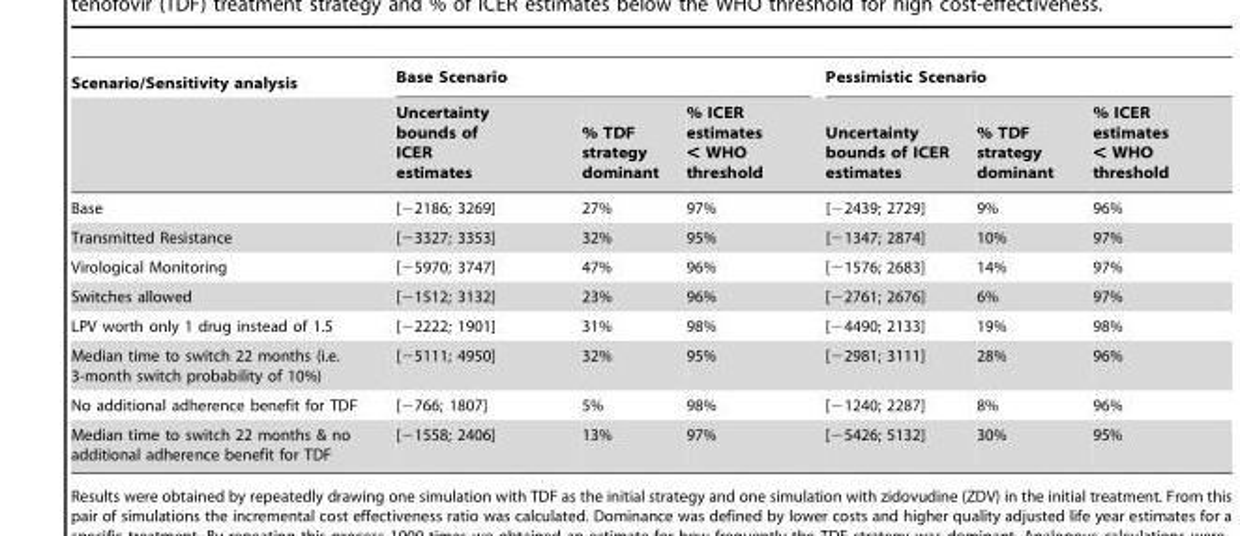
<table><thead><tr><td rowspan="2">Scenario/Sensitivity analysis</td><td colspan="3">Base Scenario</td><td colspan="3">Pessimistic Scenario</td></tr><tr><td>Uncertainty bounds of ICER estimates</td><td>% TDF strategy dominant</td><td>% ICER estimates &lt; WHO threshold</td><td>Uncertainty bounds of ICER estimates</td><td>% TDF strategy dominant</td><td>% ICER estimates &lt; WHO threshold</td></tr></thead><tbody><tr><td>Base</td><td>[−2186; 3269]</td><td>27%</td><td>97%</td><td>[−2439; 2729]</td><td>9%</td><td>96%</td></tr><tr><td>Transmitted Resistance</td><td>[−3327; 3353]</td><td>32%</td><td>95%</td><td>[−1347; 2874]</td><td>10%</td><td>97%</td></tr><tr><td>Virological Monitoring</td><td>[−5970; 3747]</td><td>47%</td><td>96%</td><td>[−1576; 2683]</td><td>14%</td><td>97%</td></tr><tr><td>Switches allowed</td><td>[−1512; 3132]</td><td>23%</td><td>96%</td><td>[−2761; 2676]</td><td>6%</td><td>97%</td></tr><tr><td>LPV worth only 1 drug instead of 1.5</td><td>[−2222; 1901]</td><td>31%</td><td>98%</td><td>[−4490; 2133]</td><td>19%</td><td>98%</td></tr><tr><td>Median time to switch 22 months (i.e. 3-month switch probability of 10%)</td><td>[−5111; 4950]</td><td>32%</td><td>95%</td><td>[−2981; 3111]</td><td>28%</td><td>96%</td></tr><tr><td>No additional adherence benefit for TDF</td><td>[−766; 1807]</td><td>5%</td><td>98%</td><td>[−1240; 2287]</td><td>8%</td><td>96%</td></tr><tr><td>Median time to switch 22 months &amp; no additional adherence benefit for TDF</td><td>[−1558; 2406]</td><td>13%</td><td>97%</td><td>[−5426; 5132]</td><td>30%</td><td>95%</td></tr></tbody></table>